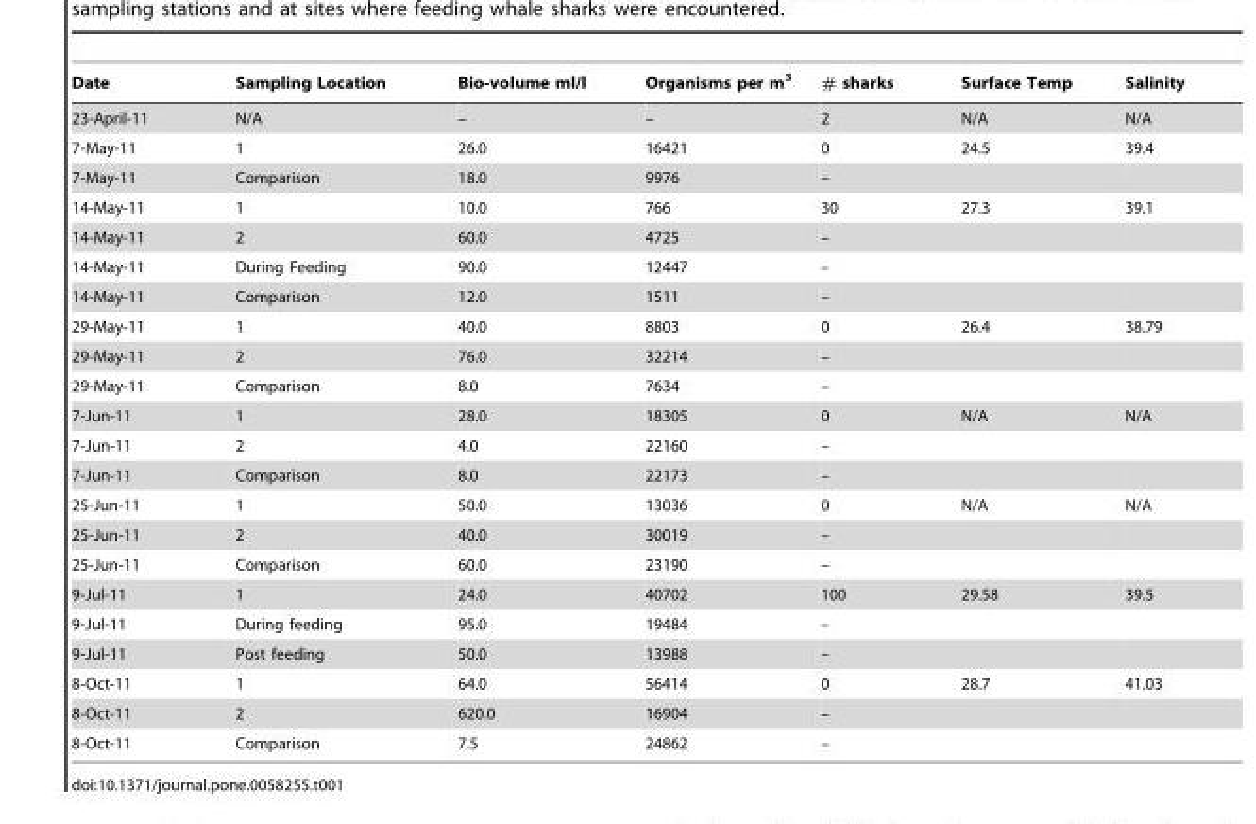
<table><thead><tr><td>Date</td><td>Sampling Location</td><td>Bio-volume ml/l</td><td>Organisms per m<sup>3</sup></td><td># sharks</td><td>Surface Temp</td><td>Salinity</td></tr></thead><tbody><tr><td>23-April-11</td><td>N/A</td><td>–</td><td>–</td><td>2</td><td>N/A</td><td>N/A</td></tr><tr><td>7-May-11</td><td>1</td><td>26.0</td><td>16421</td><td>0</td><td>24.5</td><td>39.4</td></tr><tr><td>7-May-11</td><td>Comparison</td><td>18.0</td><td>9976</td><td>–</td><td></td><td></td></tr><tr><td>14-May-11</td><td>1</td><td>10.0</td><td>766</td><td>30</td><td>27.3</td><td>39.1</td></tr><tr><td>14-May-11</td><td>2</td><td>60.0</td><td>4725</td><td>–</td><td></td><td></td></tr><tr><td>14-May-11</td><td>During Feeding</td><td>90.0</td><td>12447</td><td>–</td><td></td><td></td></tr><tr><td>14-May-11</td><td>Comparison</td><td>12.0</td><td>1511</td><td>–</td><td></td><td></td></tr><tr><td>29-May-11</td><td>1</td><td>40.0</td><td>8803</td><td>0</td><td>26.4</td><td>38.79</td></tr><tr><td>29-May-11</td><td>2</td><td>76.0</td><td>32214</td><td>–</td><td></td><td></td></tr><tr><td>29-May-11</td><td>Comparison</td><td>8.0</td><td>7634</td><td>–</td><td></td><td></td></tr><tr><td>7-Jun-11</td><td>1</td><td>28.0</td><td>18305</td><td>0</td><td>N/A</td><td>N/A</td></tr><tr><td>7-Jun-11</td><td>2</td><td>4.0</td><td>22160</td><td>–</td><td></td><td></td></tr><tr><td>7-Jun-11</td><td>Comparison</td><td>8.0</td><td>22173</td><td>–</td><td></td><td></td></tr><tr><td>25-Jun-11</td><td>1</td><td>50.0</td><td>13036</td><td>0</td><td>N/A</td><td>N/A</td></tr><tr><td>25-Jun-11</td><td>2</td><td>40.0</td><td>30019</td><td>–</td><td></td><td></td></tr><tr><td>25-Jun-11</td><td>Comparison</td><td>60.0</td><td>23190</td><td>–</td><td></td><td></td></tr><tr><td>9-Jul-11</td><td>1</td><td>24.0</td><td>40702</td><td>100</td><td>29.58</td><td>39.5</td></tr><tr><td>9-Jul-11</td><td>During feeding</td><td>95.0</td><td>19484</td><td>–</td><td></td><td></td></tr><tr><td>9-Jul-11</td><td>Post feeding</td><td>50.0</td><td>13988</td><td>–</td><td></td><td></td></tr><tr><td>8-Oct-11</td><td>1</td><td>64.0</td><td>56414</td><td>0</td><td>28.7</td><td>41.03</td></tr><tr><td>8-Oct-11</td><td>2</td><td>620.0</td><td>16904</td><td>–</td><td></td><td></td></tr><tr><td>8-Oct-11</td><td>Comparison</td><td>7.5</td><td>24862</td><td>–</td><td></td><td></td></tr></tbody></table>